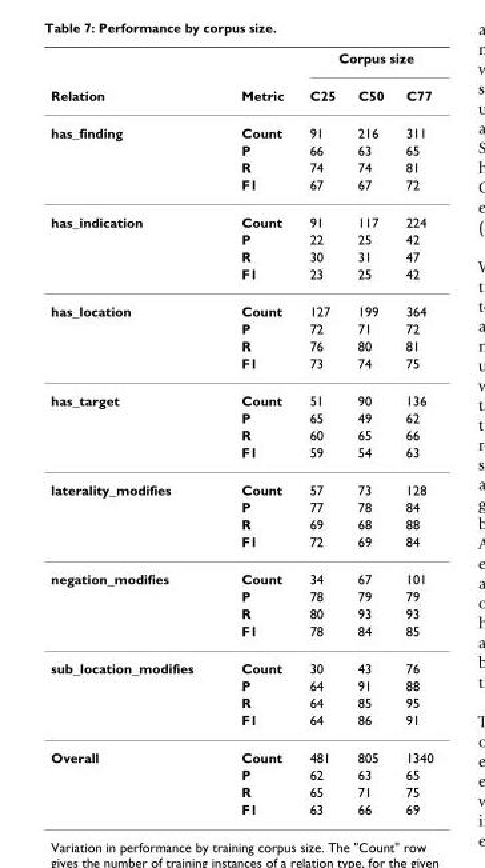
<table><thead><tr><td rowspan="2">Relation</td><td rowspan="2">Metric</td><td colspan="3">Corpus size</td></tr><tr><td>C25</td><td>C50</td><td>C77</td></tr></thead><tbody><tr><td rowspan="4">has_finding</td><td>Count</td><td>91</td><td>216</td><td>311</td></tr><tr><td>P</td><td>66</td><td>63</td><td>65</td></tr><tr><td>R</td><td>74</td><td>74</td><td>81</td></tr><tr><td>F1</td><td>67</td><td>67</td><td>72</td></tr><tr><td rowspan="4">has_indication</td><td>Count</td><td>91</td><td>117</td><td>224</td></tr><tr><td>P</td><td>22</td><td>25</td><td>42</td></tr><tr><td>R</td><td>30</td><td>31</td><td>47</td></tr><tr><td>F1</td><td>23</td><td>25</td><td>42</td></tr><tr><td rowspan="4">has_location</td><td>Count</td><td>127</td><td>199</td><td>364</td></tr><tr><td>P</td><td>72</td><td>71</td><td>72</td></tr><tr><td>R</td><td>76</td><td>80</td><td>81</td></tr><tr><td>F1</td><td>73</td><td>74</td><td>75</td></tr><tr><td rowspan="4">has_target</td><td>Count</td><td>51</td><td>90</td><td>136</td></tr><tr><td>P</td><td>65</td><td>49</td><td>62</td></tr><tr><td>R</td><td>60</td><td>65</td><td>66</td></tr><tr><td>F1</td><td>59</td><td>54</td><td>63</td></tr><tr><td rowspan="4">laterality_modifies</td><td>Count</td><td>57</td><td>73</td><td>128</td></tr><tr><td>P</td><td>77</td><td>78</td><td>84</td></tr><tr><td>R</td><td>69</td><td>68</td><td>88</td></tr><tr><td>F1</td><td>72</td><td>69</td><td>84</td></tr><tr><td rowspan="4">negation_modifies</td><td>Count</td><td>34</td><td>67</td><td>101</td></tr><tr><td>P</td><td>78</td><td>79</td><td>79</td></tr><tr><td>R</td><td>80</td><td>93</td><td>93</td></tr><tr><td>F1</td><td>78</td><td>84</td><td>85</td></tr><tr><td rowspan="4">sub_location_modifies</td><td>Count</td><td>30</td><td>43</td><td>76</td></tr><tr><td>P</td><td>64</td><td>91</td><td>88</td></tr><tr><td>R</td><td>64</td><td>85</td><td>95</td></tr><tr><td>F1</td><td>64</td><td>86</td><td>91</td></tr><tr><td rowspan="4">Overall</td><td>Count</td><td>481</td><td>805</td><td>1340</td></tr><tr><td>P</td><td>62</td><td>63</td><td>65</td></tr><tr><td>R</td><td>65</td><td>71</td><td>75</td></tr><tr><td>F1</td><td>63</td><td>66</td><td>69</td></tr></tbody></table>